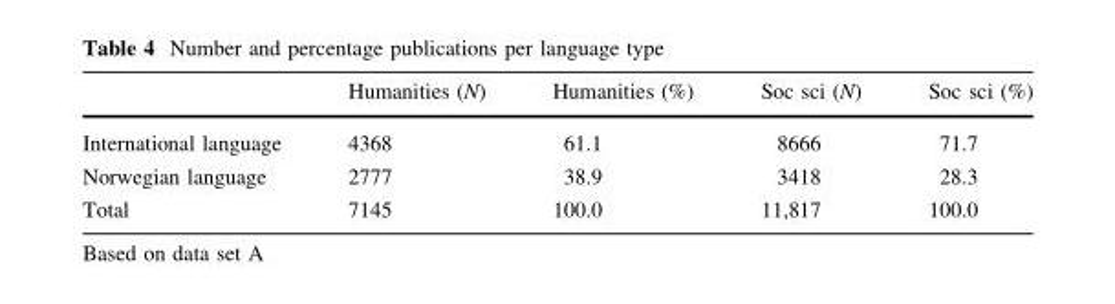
<table><thead><tr><td></td><td>Humanities (N)</td><td>Humanities (%)</td><td>Soc sci (N)</td><td>Soc sci (%)</td></tr></thead><tbody><tr><td>International language</td><td>4368</td><td>61.1</td><td>8666</td><td>71.7</td></tr><tr><td>Norwegian language</td><td>2777</td><td>38.9</td><td>3418</td><td>28.3</td></tr><tr><td>Total</td><td>7145</td><td>100.0</td><td>11,817</td><td>100.0</td></tr></tbody></table>